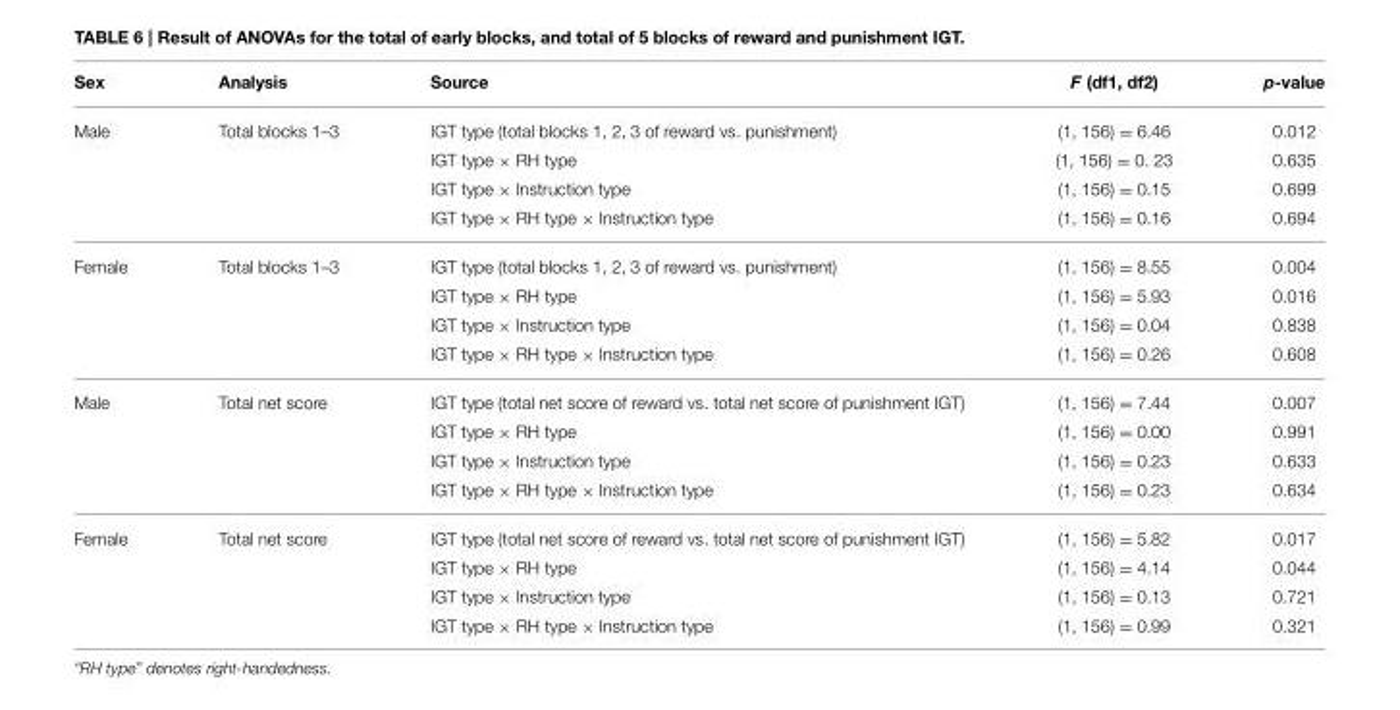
<table><thead><tr><td>Sex</td><td>Analysis</td><td>Source</td><td>F (df1, df2)</td><td>p-value</td></tr></thead><tbody><tr><td rowspan="4">Male</td><td>Total blocks 1–3</td><td>IGT type (total blocks 1, 2, 3 of reward vs. punishment)</td><td>(1, 156) = 6.46</td><td>0.012</td></tr><tr><td></td><td>IGT type × RH type</td><td>(1, 156) = 0. 23</td><td>0.635</td></tr><tr><td></td><td>IGT type × Instruction type</td><td>(1, 156) = 0.15</td><td>0.699</td></tr><tr><td></td><td>IGT type × RH type × Instruction type</td><td>(1, 156) = 0.16</td><td>0.694</td></tr><tr><td rowspan="4">Female</td><td>Total blocks 1–3</td><td>IGT type (total blocks 1, 2, 3 of reward vs. punishment)</td><td>(1, 156) = 8.55</td><td>0.004</td></tr><tr><td></td><td>IGT type × RH type</td><td>(1, 156) = 5.93</td><td>0.016</td></tr><tr><td></td><td>IGT type × Instruction type</td><td>(1, 156) = 0.04</td><td>0.838</td></tr><tr><td></td><td>IGT type × RH type × Instruction type</td><td>(1, 156) = 0.26</td><td>0.608</td></tr><tr><td rowspan="4">Male</td><td>Total net score</td><td>IGT type (total net score of reward vs. total net score of punishment IGT)</td><td>(1, 156) = 7.44</td><td>0.007</td></tr><tr><td></td><td>IGT type × RH type</td><td>(1, 156) = 0.00</td><td>0.991</td></tr><tr><td></td><td>IGT type × Instruction type</td><td>(1, 156) = 0.23</td><td>0.633</td></tr><tr><td></td><td>IGT type × RH type × Instruction type</td><td>(1, 156) = 0.23</td><td>0.634</td></tr><tr><td rowspan="4">Female</td><td>Total net score</td><td>IGT type (total net score of reward vs. total net score of punishment IGT)</td><td>(1, 156) = 5.82</td><td>0.017</td></tr><tr><td></td><td>IGT type × RH type</td><td>(1, 156) = 4.14</td><td>0.044</td></tr><tr><td></td><td>IGT type × Instruction type</td><td>(1, 156) = 0.13</td><td>0.721</td></tr><tr><td></td><td>IGT type × RH type × Instruction type</td><td>(1, 156) = 0.99</td><td>0.321</td></tr></tbody></table>